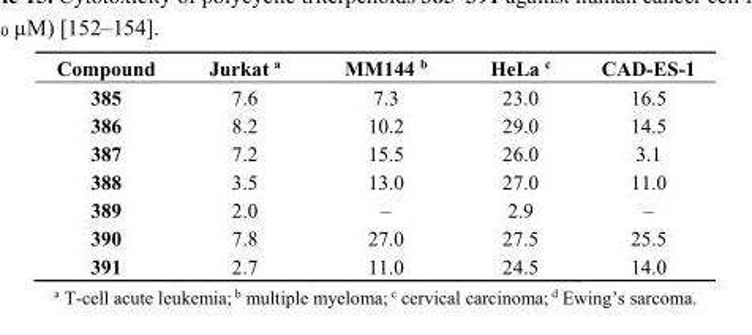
<table><thead><tr><td>Compound</td><td>Jurkat <sup>a</sup></td><td>MM144 <sup>b</sup></td><td>HeLa <sup>c</sup></td><td>CAD-ES-1</td></tr></thead><tbody><tr><td>385</td><td>7.6</td><td>7.3</td><td>23.0</td><td>16.5</td></tr><tr><td>386</td><td>8.2</td><td>10.2</td><td>29.0</td><td>14.5</td></tr><tr><td>387</td><td>7.2</td><td>15.5</td><td>26.0</td><td>3.1</td></tr><tr><td>388</td><td>3.5</td><td>13.0</td><td>27.0</td><td>11.0</td></tr><tr><td>389</td><td>2.0</td><td>–</td><td>2.9</td><td>–</td></tr><tr><td>390</td><td>7.8</td><td>27.0</td><td>27.5</td><td>25.5</td></tr><tr><td>391</td><td>2.7</td><td>11.0</td><td>24.5</td><td>14.0</td></tr></tbody></table>